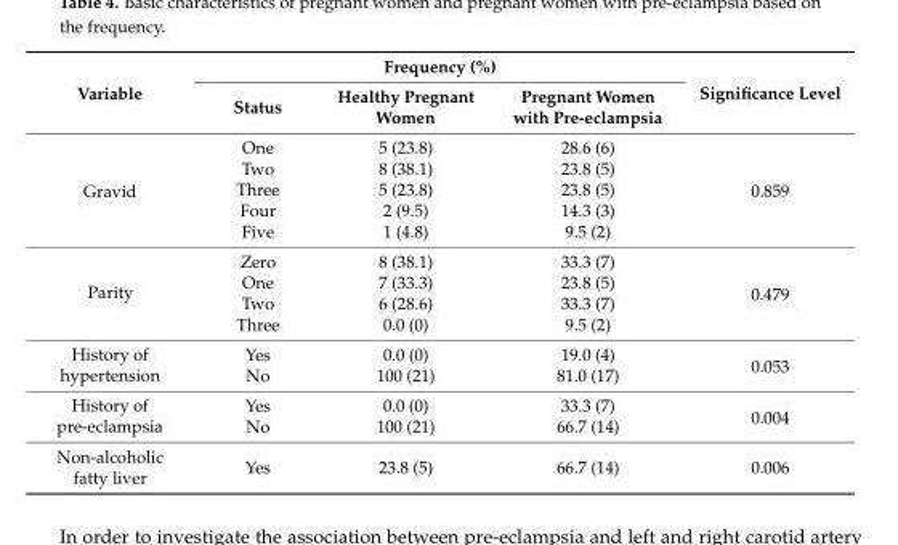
<table><thead><tr><td rowspan="2">Variable</td><td colspan="3">Frequency (%)</td><td rowspan="2">Significance Level</td></tr><tr><td>Status</td><td>Healthy Pregnant Women</td><td>Pregnant Women with Pre-eclampsia</td></tr></thead><tbody><tr><td rowspan="5">Gravid</td><td>One</td><td>5 (23.8)</td><td>28.6 (6)</td><td rowspan="5">0.859</td></tr><tr><td>Two</td><td>8 (38.1)</td><td>23.8 (5)</td></tr><tr><td>Three</td><td>5 (23.8)</td><td>23.8 (5)</td></tr><tr><td>Four</td><td>2 (9.5)</td><td>14.3 (3)</td></tr><tr><td>Five</td><td>1 (4.8)</td><td>9.5 (2)</td></tr><tr><td rowspan="4">Parity</td><td>Zero</td><td>8 (38.1)</td><td>33.3 (7)</td><td rowspan="4">0.479</td></tr><tr><td>One</td><td>7 (33.3)</td><td>23.8 (5)</td></tr><tr><td>Two</td><td>6 (28.6)</td><td>33.3 (7)</td></tr><tr><td>Three</td><td>0.0 (0)</td><td>9.5 (2)</td></tr><tr><td rowspan="2">History of hypertension</td><td>Yes</td><td>0.0 (0)</td><td>19.0 (4)</td><td rowspan="2">0.053</td></tr><tr><td>No</td><td>100 (21)</td><td>81.0 (17)</td></tr><tr><td rowspan="2">History of pre-eclampsia</td><td>Yes</td><td>0.0 (0)</td><td>33.3 (7)</td><td rowspan="2">0.004</td></tr><tr><td>No</td><td>100 (21)</td><td>66.7 (14)</td></tr><tr><td>Non-alcoholic fatty liver</td><td>Yes</td><td>23.8 (5)</td><td>66.7 (14)</td><td>0.006</td></tr></tbody></table>